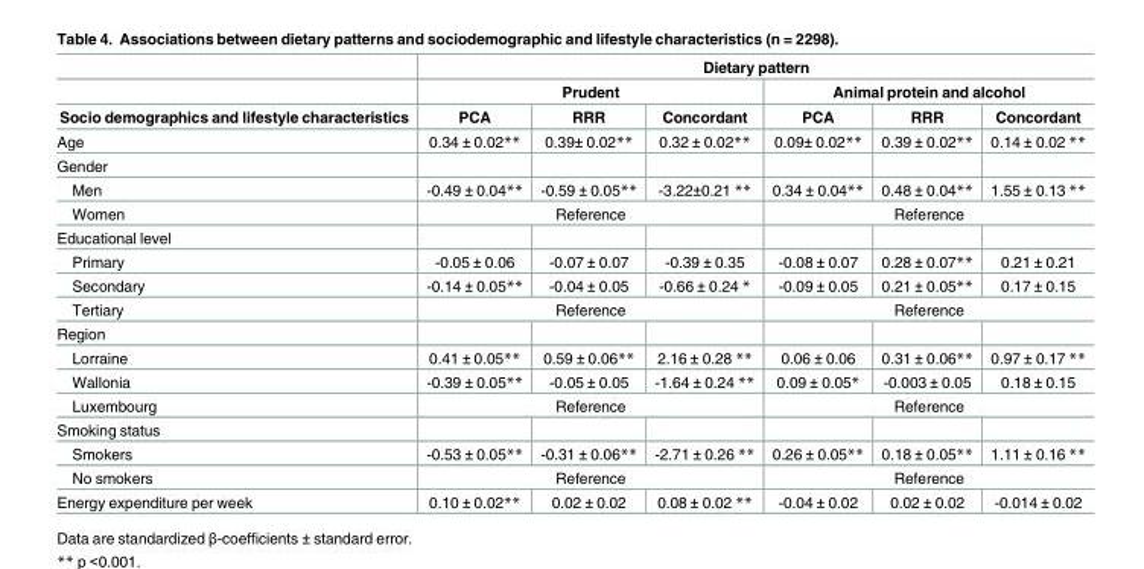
<table><thead><tr><td rowspan="3">Socio demographics and lifestyle characteristics</td><td colspan="6">Dietary pattern</td></tr><tr><td colspan="3">Prudent</td><td colspan="3">Animal protein and alcohol</td></tr><tr><td>PCA</td><td>RRR</td><td>Concordant</td><td>PCA</td><td>RRR</td><td>Concordant</td></tr></thead><tbody><tr><td>Age</td><td>0.34 ± 0.02**</td><td>0.39± 0.02**</td><td>0.32 ± 0.02**</td><td>0.09± 0.02**</td><td>0.39 ± 0.02**</td><td>0.14 ± 0.02 **</td></tr><tr><td colspan="7">Gender</td></tr><tr><td>Men</td><td>-0.49 ± 0.04**</td><td>-0.59 ± 0.05**</td><td>-3.22±0.21 **</td><td>0.34 ± 0.04**</td><td>0.48 ± 0.04**</td><td>1.55 ± 0.13 **</td></tr><tr><td>Women</td><td colspan="3">Reference</td><td colspan="3">Reference</td></tr><tr><td colspan="7">Educational level</td></tr><tr><td>Primary</td><td>-0.05 ± 0.06</td><td>-0.07 ± 0.07</td><td>-0.39 ± 0.35</td><td>-0.08 ± 0.07</td><td>0.28 ± 0.07**</td><td>0.21 ± 0.21</td></tr><tr><td>Secondary</td><td>-0.14 ± 0.05**</td><td>-0.04 ± 0.05</td><td>-0.66 ± 0.24 *</td><td>-0.09 ± 0.05</td><td>0.21 ± 0.05**</td><td>0.17 ± 0.15</td></tr><tr><td>Tertiary</td><td colspan="3">Reference</td><td colspan="3">Reference</td></tr><tr><td colspan="7">Region</td></tr><tr><td>Lorraine</td><td>0.41 ± 0.05**</td><td>0.59 ± 0.06**</td><td>2.16 ± 0.28 **</td><td>0.06 ± 0.06</td><td>0.31 ± 0.06**</td><td>0.97 ± 0.17 **</td></tr><tr><td>Wallonia</td><td>-0.39 ± 0.05**</td><td>-0.05 ± 0.05</td><td>-1.64 ± 0.24 **</td><td>0.09 ± 0.05*</td><td>-0.003 ± 0.05</td><td>0.18 ± 0.15</td></tr><tr><td>Luxembourg</td><td colspan="3">Reference</td><td colspan="3">Reference</td></tr><tr><td colspan="7">Smoking status</td></tr><tr><td>Smokers</td><td>-0.53 ± 0.05**</td><td>-0.31 ± 0.06**</td><td>-2.71 ± 0.26 **</td><td>0.26 ± 0.05**</td><td>0.18 ± 0.05**</td><td>1.11 ± 0.16 **</td></tr><tr><td>No smokers</td><td colspan="3">Reference</td><td colspan="3">Reference</td></tr><tr><td>Energy expenditure per week</td><td>0.10 ± 0.02**</td><td>0.02 ± 0.02</td><td>0.08 ± 0.02 **</td><td>-0.04 ± 0.02</td><td>0.02 ± 0.02</td><td>-0.014 ± 0.02</td></tr></tbody></table>